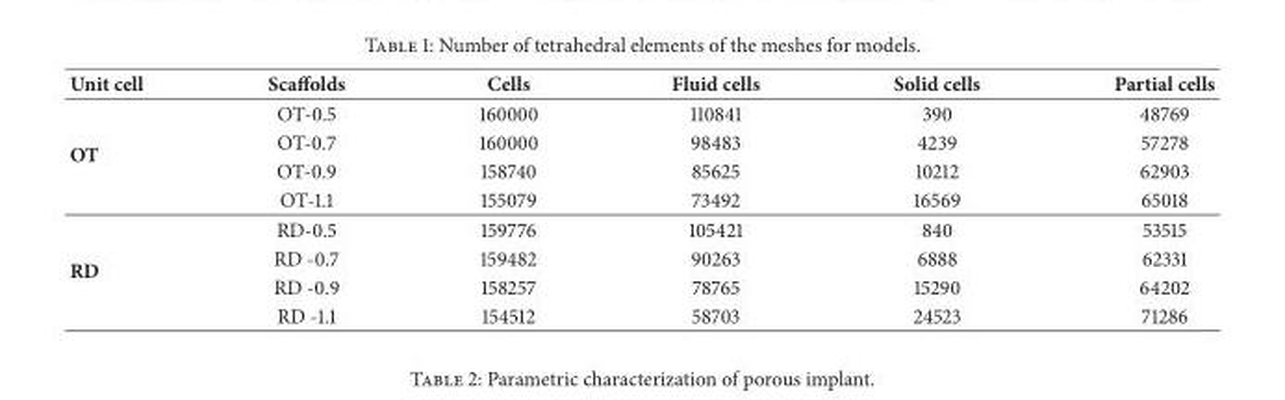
<table><thead><tr><td>Unit cell</td><td>Scaffolds</td><td>Cells</td><td>Fluid cells</td><td>Solid cells</td><td>Partial cells</td></tr></thead><tbody><tr><td rowspan="4">OT</td><td>OT-0.5</td><td>160000</td><td>110841</td><td>390</td><td>48769</td></tr><tr><td>OT-0.7</td><td>160000</td><td>98483</td><td>4239</td><td>57278</td></tr><tr><td>OT-0.9</td><td>158740</td><td>85625</td><td>10212</td><td>62903</td></tr><tr><td>OT-1.1</td><td>155079</td><td>73492</td><td>16569</td><td>65018</td></tr><tr><td rowspan="4">RD</td><td>RD-0.5</td><td>159776</td><td>105421</td><td>840</td><td>53515</td></tr><tr><td>RD -0.7</td><td>159482</td><td>90263</td><td>6888</td><td>62331</td></tr><tr><td>RD -0.9</td><td>158257</td><td>78765</td><td>15290</td><td>64202</td></tr><tr><td>RD -1.1</td><td>154512</td><td>58703</td><td>24523</td><td>71286</td></tr></tbody></table>